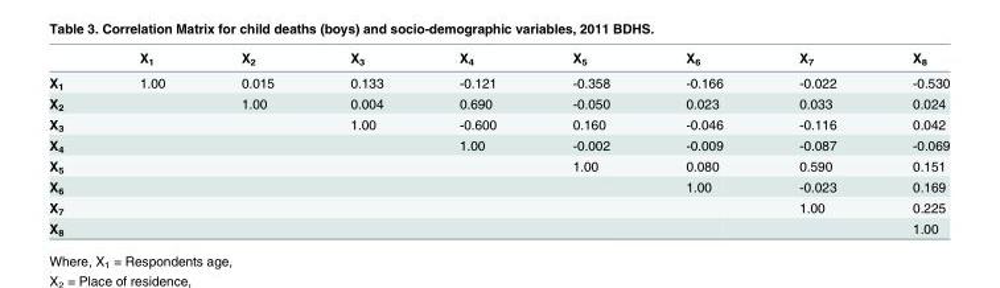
<table><thead><tr><td></td><td>X<sub>1</sub></td><td>X<sub>2</sub></td><td>X<sub>3</sub></td><td>X<sub>4</sub></td><td>X<sub>5</sub></td><td>X<sub>6</sub></td><td>X<sub>7</sub></td><td>X<sub>8</sub></td></tr></thead><tbody><tr><td>X<sub>1</sub></td><td>1.00</td><td>0.015</td><td>0.133</td><td>-0.121</td><td>-0.358</td><td>-0.166</td><td>-0.022</td><td>-0.530</td></tr><tr><td>X<sub>2</sub></td><td></td><td>1.00</td><td>0.004</td><td>0.690</td><td>-0.050</td><td>0.023</td><td>0.033</td><td>0.024</td></tr><tr><td>X<sub>3</sub></td><td></td><td></td><td>1.00</td><td>-0.600</td><td>0.160</td><td>-0.046</td><td>-0.116</td><td>0.042</td></tr><tr><td>X<sub>4</sub></td><td></td><td></td><td></td><td>1.00</td><td>-0.002</td><td>-0.009</td><td>-0.087</td><td>-0.069</td></tr><tr><td>X<sub>5</sub></td><td></td><td></td><td></td><td></td><td>1.00</td><td>0.080</td><td>0.590</td><td>0.151</td></tr><tr><td>X<sub>6</sub></td><td></td><td></td><td></td><td></td><td></td><td>1.00</td><td>-0.023</td><td>0.169</td></tr><tr><td>X<sub>7</sub></td><td></td><td></td><td></td><td></td><td></td><td></td><td>1.00</td><td>0.225</td></tr><tr><td>X<sub>8</sub></td><td></td><td></td><td></td><td></td><td></td><td></td><td></td><td>1.00</td></tr></tbody></table>